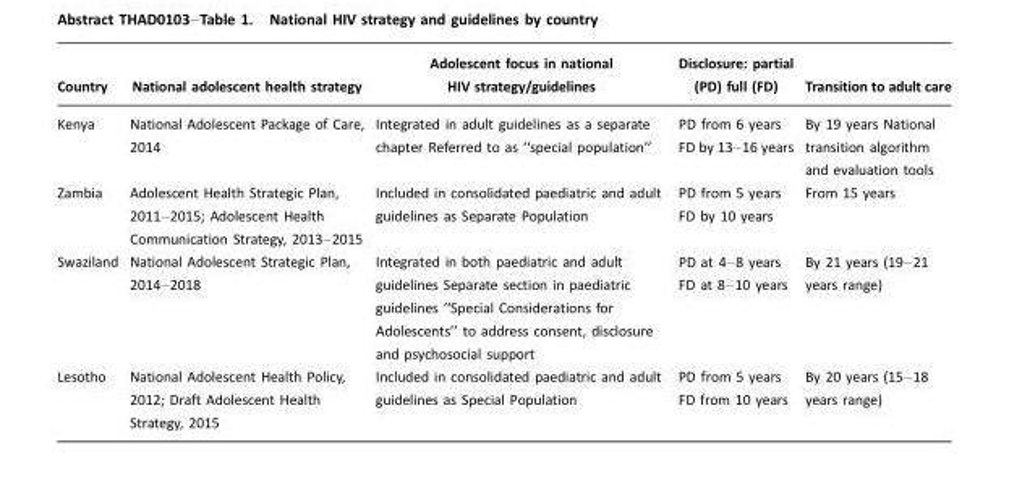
<table><thead><tr><td>Country</td><td>National adolescent health strategy</td><td>Adolescent focus in national HIV strategy/guidelines</td><td>Disclosure: partial (PD) full (FD)</td><td>Transition to adult care</td></tr></thead><tbody><tr><td>Kenya</td><td>National Adolescent Package of Care, 2014</td><td>Integrated in adult guidelines as a separate chapter Referred to as ‘‘special population’’</td><td>PD from 6 years FD by 13–16 years</td><td>By 19 years National transition algorithm and evaluation tools</td></tr><tr><td>Zambia</td><td>Adolescent Health Strategic Plan, 2011–2015; Adolescent Health Communication Strategy, 2013–2015</td><td>Included in consolidated paediatric and adult guidelines as Separate Population</td><td>PD from 5 years FD by 10 years</td><td>From 15 years</td></tr><tr><td>Swaziland</td><td>National Adolescent Strategic Plan, 2014–2018</td><td>Integrated in both paediatric and adult guidelines Separate section in paediatric guidelines ‘‘Special Considerations for Adolescents’’ to address consent, disclosure and psychosocial support</td><td>PD at 4–8 years FD at 8–10 years</td><td>By 21 years (19–21 years range)</td></tr><tr><td>Lesotho</td><td>National Adolescent Health Policy, 2012; Draft Adolescent Health Strategy, 2015</td><td>Included in consolidated paediatric and adult guidelines as Special Population</td><td>PD from 5 years FD from 10 years</td><td>By 20 years (15–18 years range)</td></tr></tbody></table>